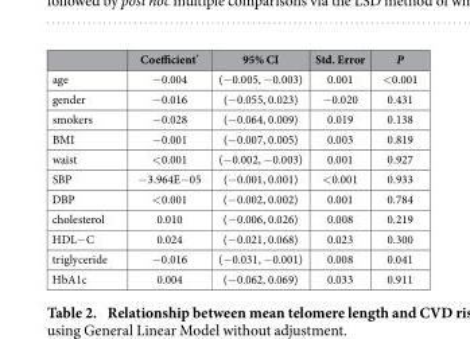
<table><thead><tr><td></td><td>Coefficient*</td><td>95% CI</td><td>Std. Error</td><td>P</td></tr></thead><tbody><tr><td>age</td><td>− 0.004</td><td>(− 0.005, − 0.003)</td><td>0.001</td><td>&lt; 0.001</td></tr><tr><td>gender</td><td>− 0.016</td><td>(− 0.055, 0.023)</td><td>− 0.020</td><td>0.431</td></tr><tr><td>smokers</td><td>− 0.028</td><td>(− 0.064, 0.009)</td><td>0.019</td><td>0.138</td></tr><tr><td>BMI</td><td>− 0.001</td><td>(− 0.007, 0.005)</td><td>0.003</td><td>0.819</td></tr><tr><td>waist</td><td>&lt; 0.001</td><td>(− 0.002, − 0.003)</td><td>0.001</td><td>0.927</td></tr><tr><td>SBP</td><td>− 3.964E− 05</td><td>(− 0.001, 0.001)</td><td>&lt; 0.001</td><td>0.933</td></tr><tr><td>DBP</td><td>&lt; 0.001</td><td>(− 0.002, 0.002)</td><td>0.001</td><td>0.784</td></tr><tr><td>cholesterol</td><td>0.010</td><td>(− 0.006, 0.026)</td><td>0.008</td><td>0.219</td></tr><tr><td>HDL− C</td><td>0.024</td><td>(− 0.021, 0.068)</td><td>0.023</td><td>0.300</td></tr><tr><td>triglyceride</td><td>− 0.016</td><td>(− 0.031, − 0.001)</td><td>0.008</td><td>0.041</td></tr><tr><td>HbA1c</td><td>0.004</td><td>(− 0.062, 0.069)</td><td>0.033</td><td>0.911</td></tr></tbody></table>